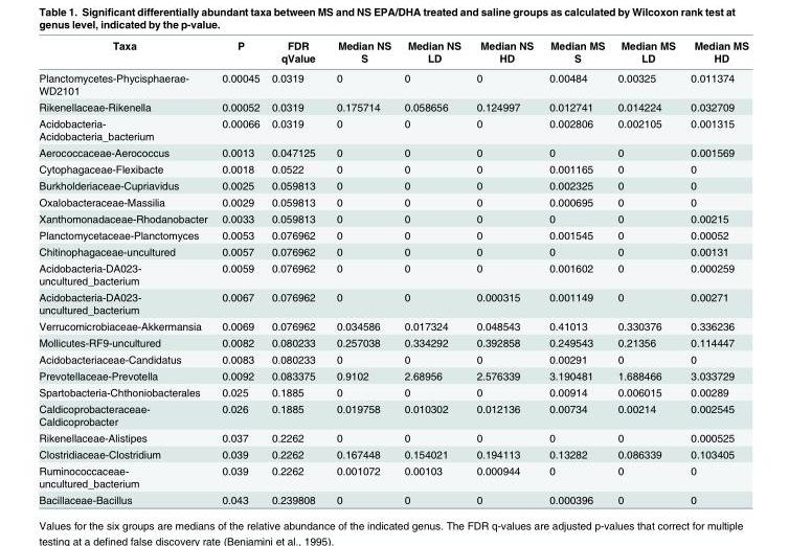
<table><thead><tr><td>Taxa</td><td>P</td><td>FDR qValue</td><td>Median NS S</td><td>Median NS LD</td><td>Median NS HD</td><td>Median MS S</td><td>Median MS LD</td><td>Median MS HD</td></tr></thead><tbody><tr><td>Planctomycetes-Phycisphaerae- WD2101</td><td>0.00045</td><td>0.0319</td><td>0</td><td>0</td><td>0</td><td>0.00484</td><td>0.00325</td><td>0.011374</td></tr><tr><td>Rikenellaceae-Rikenella</td><td>0.00052</td><td>0.0319</td><td>0.175714</td><td>0.058656</td><td>0.124997</td><td>0.012741</td><td>0.014224</td><td>0.032709</td></tr><tr><td>Acidobacteria- Acidobacteria_bacterium</td><td>0.00066</td><td>0.0319</td><td>0</td><td>0</td><td>0</td><td>0.002806</td><td>0.002105</td><td>0.001315</td></tr><tr><td>Aerococcaceae-Aerococcus</td><td>0.0013</td><td>0.047125</td><td>0</td><td>0</td><td>0</td><td>0</td><td>0</td><td>0.001569</td></tr><tr><td>Cytophagaceae-Flexibacte</td><td>0.0018</td><td>0.0522</td><td>0</td><td>0</td><td>0</td><td>0.001165</td><td>0</td><td>0</td></tr><tr><td>Burkholderiaceae-Cupriavidus</td><td>0.0025</td><td>0.059813</td><td>0</td><td>0</td><td>0</td><td>0.002325</td><td>0</td><td>0</td></tr><tr><td>Oxalobacteraceae-Massilia</td><td>0.0029</td><td>0.059813</td><td>0</td><td>0</td><td>0</td><td>0.000695</td><td>0</td><td>0</td></tr><tr><td>Xanthomonadaceae-Rhodanobacter</td><td>0.0033</td><td>0.059813</td><td>0</td><td>0</td><td>0</td><td>0</td><td>0</td><td>0.00215</td></tr><tr><td>Planctomycetaceae-Planctomyces</td><td>0.0053</td><td>0.076962</td><td>0</td><td>0</td><td>0</td><td>0.001545</td><td>0</td><td>0.00052</td></tr><tr><td>Chitinophagaceae-uncultured</td><td>0.0057</td><td>0.076962</td><td>0</td><td>0</td><td>0</td><td>0</td><td>0</td><td>0.00131</td></tr><tr><td>Acidobacteria-DA023- uncultured_bacterium</td><td>0.0059</td><td>0.076962</td><td>0</td><td>0</td><td>0</td><td>0.001602</td><td>0</td><td>0.000259</td></tr><tr><td>Acidobacteria-DA023- uncultured_bacterium</td><td>0.0067</td><td>0.076962</td><td>0</td><td>0</td><td>0.000315</td><td>0.001149</td><td>0</td><td>0.00271</td></tr><tr><td>Verrucomicrobiaceae-Akkermansia</td><td>0.0069</td><td>0.076962</td><td>0.034586</td><td>0.017324</td><td>0.048543</td><td>0.41013</td><td>0.330376</td><td>0.336236</td></tr><tr><td>Mollicutes-RF9-uncultured</td><td>0.0082</td><td>0.080233</td><td>0.257038</td><td>0.334292</td><td>0.392858</td><td>0.249543</td><td>0.21356</td><td>0.114447</td></tr><tr><td>Acidobacteriaceae-Candidatus</td><td>0.0083</td><td>0.080233</td><td>0</td><td>0</td><td>0</td><td>0.00291</td><td>0</td><td>0</td></tr><tr><td>Prevotellaceae-Prevotella</td><td>0.0092</td><td>0.083375</td><td>0.9102</td><td>2.68956</td><td>2.576339</td><td>3.190481</td><td>1.688466</td><td>3.033729</td></tr><tr><td>Spartobacteria-Chthoniobacterales</td><td>0.025</td><td>0.1885</td><td>0</td><td>0</td><td>0</td><td>0.00914</td><td>0.006015</td><td>0.00289</td></tr><tr><td>Caldicoprobacteraceae- Caldicoprobacter</td><td>0.026</td><td>0.1885</td><td>0.019758</td><td>0.010302</td><td>0.012136</td><td>0.00734</td><td>0.00214</td><td>0.002545</td></tr><tr><td>Rikenellaceae-Alistipes</td><td>0.037</td><td>0.2262</td><td>0</td><td>0</td><td>0</td><td>0</td><td>0</td><td>0.000525</td></tr><tr><td>Clostridiaceae-Clostridium</td><td>0.039</td><td>0.2262</td><td>0.167448</td><td>0.154021</td><td>0.194113</td><td>0.13282</td><td>0.086339</td><td>0.103405</td></tr><tr><td>Ruminococcaceae- uncultured_bacterium</td><td>0.039</td><td>0.2262</td><td>0.001072</td><td>0.00103</td><td>0.000944</td><td>0</td><td>0</td><td>0</td></tr><tr><td>Bacillaceae-Bacillus</td><td>0.043</td><td>0.239808</td><td>0</td><td>0</td><td>0</td><td>0.000396</td><td>0</td><td>0</td></tr></tbody></table>